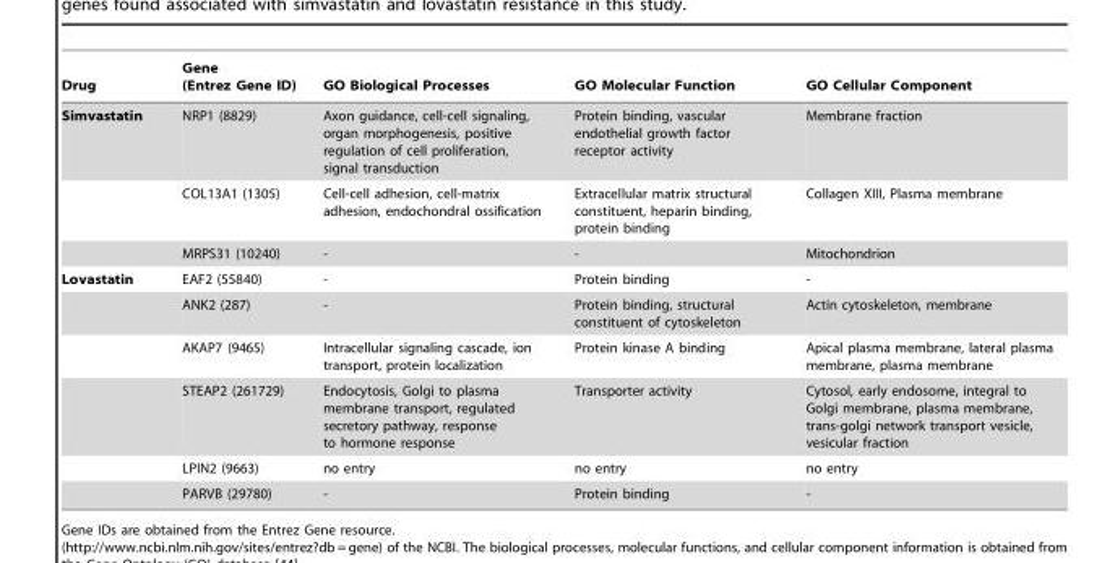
<table><thead><tr><td>Drug</td><td>Gene (Entrez Gene ID)</td><td>GO Biological Processes</td><td>GO Molecular Function</td><td>GO Cellular Component</td></tr></thead><tbody><tr><td rowspan="3">Simvastatin</td><td>NRP1 (8829)</td><td>Axon guidance, cell-cell signaling, organ morphogenesis, positive regulation of cell proliferation, signal transduction</td><td>Protein binding, vascular endothelial growth factor receptor activity</td><td>Membrane fraction</td></tr><tr><td>COL13A1 (1305)</td><td>Cell-cell adhesion, cell-matrix adhesion, endochondral ossification</td><td>Extracellular matrix structural constituent, heparin binding, protein binding</td><td>Collagen XIII, Plasma membrane</td></tr><tr><td>MRPS31 (10240)</td><td>-</td><td>-</td><td>Mitochondrion</td></tr><tr><td rowspan="6">Lovastatin</td><td>EAF2 (55840)</td><td>-</td><td>Protein binding</td><td>-</td></tr><tr><td>ANK2 (287)</td><td>-</td><td>Protein binding, structural constituent of cytoskeleton</td><td>Actin cytoskeleton, membrane</td></tr><tr><td>AKAP7 (9465)</td><td>Intracellular signaling cascade, ion transport, protein localization</td><td>Protein kinase A binding</td><td>Apical plasma membrane, lateral plasma membrane, plasma membrane</td></tr><tr><td>STEAP2 (261729)</td><td>Endocytosis, Golgi to plasma membrane transport, regulated secretory pathway, response to hormone response</td><td>Transporter activity</td><td>Cytosol, early endosome, integral to Golgi membrane, plasma membrane, trans-golgi network transport vesicle, vesicular fraction</td></tr><tr><td>LPIN2 (9663)</td><td>no entry</td><td>no entry</td><td>no entry</td></tr><tr><td>PARVB (29780)</td><td>-</td><td>Protein binding</td><td>-</td></tr></tbody></table>